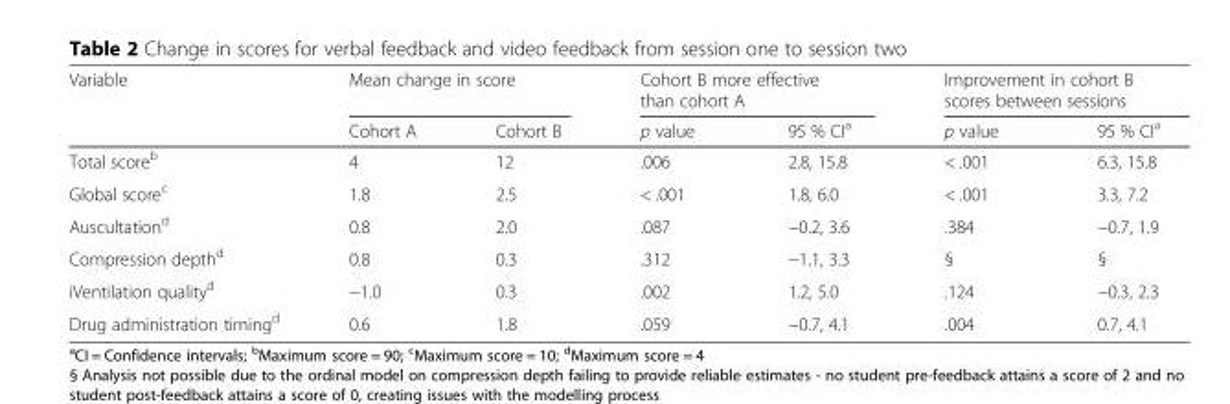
<table><thead><tr><td rowspan="2">Variable</td><td colspan="2">Mean change in score</td><td colspan="2">Cohort B more effective than cohort A</td><td colspan="2">Improvement in cohort B scores between sessions</td></tr><tr><td>Cohort A</td><td>Cohort B</td><td>p value</td><td>95 % CI<sup>a</sup></td><td>p value</td><td>95 % CI<sup>a</sup></td></tr></thead><tbody><tr><td>Total score<sup>b</sup></td><td>4</td><td>12</td><td>.006</td><td>2.8, 15.8</td><td>&lt; .001</td><td>6.3, 15.8</td></tr><tr><td>Global score<sup>c</sup></td><td>1.8</td><td>2.5</td><td>&lt; .001</td><td>1.8, 6.0</td><td>&lt; .001</td><td>3.3, 7.2</td></tr><tr><td>Auscultation<sup>d</sup></td><td>0.8</td><td>2.0</td><td>.087</td><td>−0.2, 3.6</td><td>.384</td><td>−0.7, 1.9</td></tr><tr><td>Compression depth<sup>d</sup></td><td>0.8</td><td>0.3</td><td>.312</td><td>−1.1, 3.3</td><td>§</td><td>§</td></tr><tr><td>iVentilation quality<sup>d</sup></td><td>−1.0</td><td>0.3</td><td>.002</td><td>1.2, 5.0</td><td>.124</td><td>−0.3, 2.3</td></tr><tr><td>Drug administration timing<sup>d</sup></td><td>0.6</td><td>1.8</td><td>.059</td><td>−0.7, 4.1</td><td>.004</td><td>0.7, 4.1</td></tr></tbody></table>